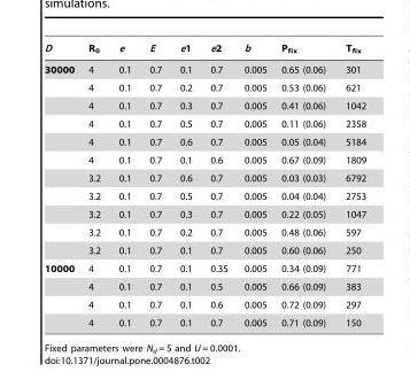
<table><thead><tr><td>D</td><td>R<sub>0</sub></td><td>e</td><td>E</td><td>e1</td><td>e2</td><td>b</td><td>P<sub>fix</sub></td><td>T<sub>fix</sub></td></tr></thead><tbody><tr><td rowspan="11">30000</td><td>4</td><td>0.1</td><td>0.7</td><td>0.1</td><td>0.7</td><td>0.005</td><td>0.65 (0.06)</td><td>301</td></tr><tr><td>4</td><td>0.1</td><td>0.7</td><td>0.2</td><td>0.7</td><td>0.005</td><td>0.53 (0.06)</td><td>621</td></tr><tr><td>4</td><td>0.1</td><td>0.7</td><td>0.3</td><td>0.7</td><td>0.005</td><td>0.41 (0.06)</td><td>1042</td></tr><tr><td>4</td><td>0.1</td><td>0.7</td><td>0.5</td><td>0.7</td><td>0.005</td><td>0.11 (0.06)</td><td>2358</td></tr><tr><td>4</td><td>0.1</td><td>0.7</td><td>0.6</td><td>0.7</td><td>0.005</td><td>0.05 (0.04)</td><td>5184</td></tr><tr><td>4</td><td>0.1</td><td>0.7</td><td>0.1</td><td>0.6</td><td>0.005</td><td>0.67 (0.09)</td><td>1809</td></tr><tr><td>3.2</td><td>0.1</td><td>0.7</td><td>0.6</td><td>0.7</td><td>0.005</td><td>0.03 (0.03)</td><td>6792</td></tr><tr><td>3.2</td><td>0.1</td><td>0.7</td><td>0.5</td><td>0.7</td><td>0.005</td><td>0.04 (0.04)</td><td>2753</td></tr><tr><td>3.2</td><td>0.1</td><td>0.7</td><td>0.3</td><td>0.7</td><td>0.005</td><td>0.22 (0.05)</td><td>1047</td></tr><tr><td>3.2</td><td>0.1</td><td>0.7</td><td>0.2</td><td>0.7</td><td>0.005</td><td>0.48 (0.06)</td><td>597</td></tr><tr><td>3.2</td><td>0.1</td><td>0.7</td><td>0.1</td><td>0.7</td><td>0.005</td><td>0.60 (0.06)</td><td>250</td></tr><tr><td rowspan="4">10000</td><td>4</td><td>0.1</td><td>0.7</td><td>0.1</td><td>0.35</td><td>0.005</td><td>0.34 (0.09)</td><td>771</td></tr><tr><td>4</td><td>0.1</td><td>0.7</td><td>0.1</td><td>0.5</td><td>0.005</td><td>0.66 (0.09)</td><td>383</td></tr><tr><td>4</td><td>0.1</td><td>0.7</td><td>0.1</td><td>0.6</td><td>0.005</td><td>0.72 (0.09)</td><td>297</td></tr><tr><td>4</td><td>0.1</td><td>0.7</td><td>0.1</td><td>0.7</td><td>0.005</td><td>0.71 (0.09)</td><td>150</td></tr></tbody></table>